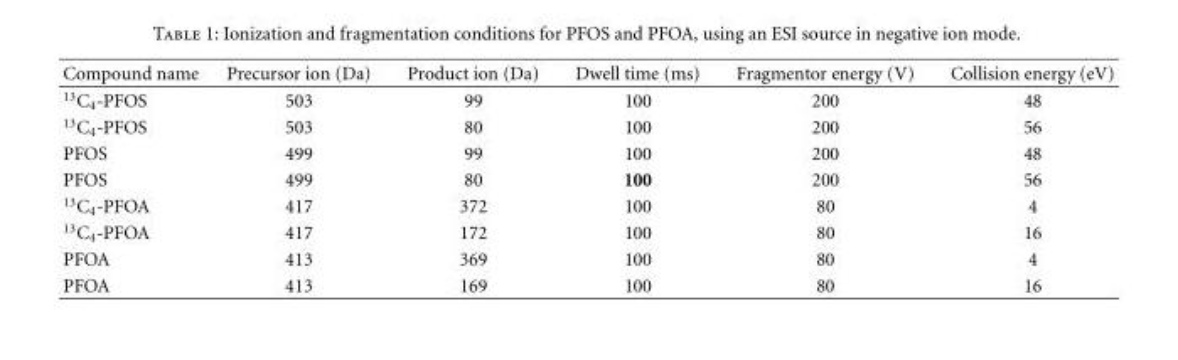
<table><thead><tr><td>Compound name</td><td>Precursor ion (Da)</td><td>Product ion (Da)</td><td>Dwell time (ms)</td><td>Fragmentor energy (V)</td><td>Collision energy (eV)</td></tr></thead><tbody><tr><td><sup>13</sup>C<sub>4</sub>-PFOS</td><td>503</td><td>99</td><td>100</td><td>200</td><td>48</td></tr><tr><td><sup>13</sup>C<sub>4</sub>-PFOS</td><td>503</td><td>80</td><td>100</td><td>200</td><td>56</td></tr><tr><td>PFOS</td><td>499</td><td>99</td><td>100</td><td>200</td><td>48</td></tr><tr><td>PFOS</td><td>499</td><td>80</td><td>100</td><td>200</td><td>56</td></tr><tr><td><sup>13</sup>C<sub>4</sub>-PFOA</td><td>417</td><td>372</td><td>100</td><td>80</td><td>4</td></tr><tr><td><sup>13</sup>C<sub>4</sub>-PFOA</td><td>417</td><td>172</td><td>100</td><td>80</td><td>16</td></tr><tr><td>PFOA</td><td>413</td><td>369</td><td>100</td><td>80</td><td>4</td></tr><tr><td>PFOA</td><td>413</td><td>169</td><td>100</td><td>80</td><td>16</td></tr></tbody></table>